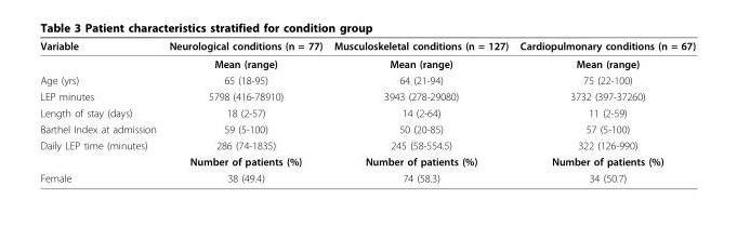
<table><thead><tr><td>Variable</td><td>Neurological conditions (n = 77)</td><td>Musculoskeletal conditions (n = 127)</td><td>Cardiopulmonary conditions (n = 67)</td></tr></thead><tbody><tr><td></td><td>Mean (range)</td><td>Mean (range)</td><td>Mean (range)</td></tr><tr><td>Age (yrs)</td><td>65 (18-95)</td><td>64 (21-94)</td><td>75 (22-100)</td></tr><tr><td>LEP minutes</td><td>5798 (416-78910)</td><td>3943 (278-29080)</td><td>3732 (397-37260)</td></tr><tr><td>Length of stay (days)</td><td>18 (2-57)</td><td>14 (2-64)</td><td>11 (2-59)</td></tr><tr><td>Barthel Index at admission</td><td>59 (5-100)</td><td>50 (20-85)</td><td>57 (5-100)</td></tr><tr><td rowspan="2">Daily LEP time (minutes)</td><td>286 (74-1835)</td><td>245 (58-554.5)</td><td>322 (126-990)</td></tr><tr><td>Number of patients (%)</td><td>Number of patients (%)</td><td>Number of patients (%)</td></tr><tr><td>Female</td><td>38 (49.4)</td><td>74 (58.3)</td><td>34 (50.7)</td></tr></tbody></table>